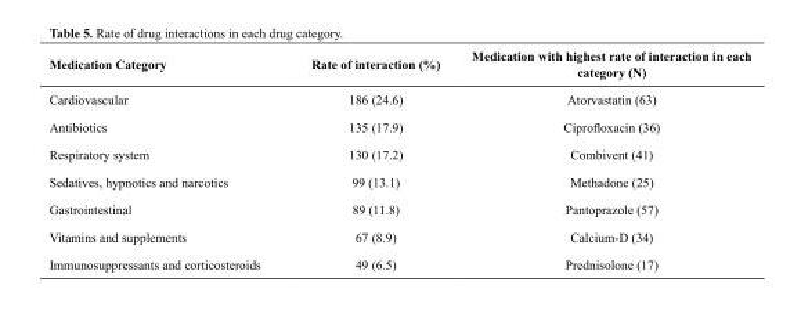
<table><thead><tr><td>Medication Category</td><td>Rate of interaction (%)</td><td>Medication with highest rate of interaction in each category (N)</td></tr></thead><tbody><tr><td>Cardiovascular</td><td>186 (24.6)</td><td>Atorvastatin (63)</td></tr><tr><td>Antibiotics</td><td>135 (17.9)</td><td>Ciprofloxacin (36)</td></tr><tr><td>Respiratory system</td><td>130 (17.2)</td><td>Combivent (41)</td></tr><tr><td>Sedatives, hypnotics and narcotics</td><td>99 (13.1)</td><td>Methadone (25)</td></tr><tr><td>Gastrointestinal</td><td>89 (11.8)</td><td>Pantoprazole (57)</td></tr><tr><td>Vitamins and supplements</td><td>67 (8.9)</td><td>Calcium-D (34)</td></tr><tr><td>Immunosuppressants and corticosteroids</td><td>49 (6.5)</td><td>Prednisolone (17)</td></tr></tbody></table>